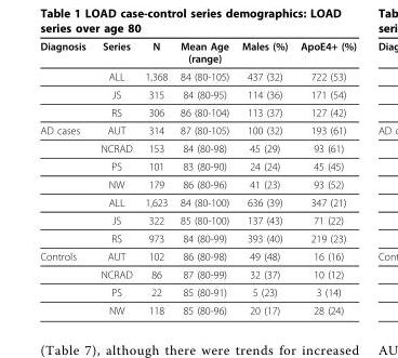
<table><thead><tr><td>Diagnosis</td><td>Series</td><td>N</td><td>Mean Age (range)</td><td>Males (%)</td><td>ApoE4+ (%)</td></tr></thead><tbody><tr><td></td><td>ALL</td><td>1,368</td><td>84 (80-105)</td><td>437 (32)</td><td>722 (53)</td></tr><tr><td></td><td>JS</td><td>315</td><td>84 (80-95)</td><td>114 (36)</td><td>171 (54)</td></tr><tr><td></td><td>RS</td><td>306</td><td>86 (80-104)</td><td>113 (37)</td><td>127 (42)</td></tr><tr><td rowspan="7">AD cases</td><td>AUT</td><td>314</td><td>87 (80-105)</td><td>100 (32)</td><td>193 (61)</td></tr><tr><td>NCRAD</td><td>153</td><td>84 (80-98)</td><td>45 (29)</td><td>93 (61)</td></tr><tr><td>PS</td><td>101</td><td>83 (80-90)</td><td>24 (24)</td><td>45 (45)</td></tr><tr><td>NW</td><td>179</td><td>86 (80-96)</td><td>41 (23)</td><td>93 (52)</td></tr><tr><td>ALL</td><td>1,623</td><td>84 (80-100)</td><td>636 (39)</td><td>347 (21)</td></tr><tr><td>JS</td><td>322</td><td>85 (80-100)</td><td>137 (43)</td><td>71 (22)</td></tr><tr><td>RS</td><td>973</td><td>84 (80-99)</td><td>393 (40)</td><td>219 (23)</td></tr><tr><td rowspan="4">Controls</td><td>AUT</td><td>102</td><td>86 (80-98)</td><td>49 (48)</td><td>16 (16)</td></tr><tr><td>NCRAD</td><td>86</td><td>87 (80-99)</td><td>32 (37)</td><td>10 (12)</td></tr><tr><td>PS</td><td>22</td><td>85 (80-91)</td><td>5 (23)</td><td>3 (14)</td></tr><tr><td>NW</td><td>118</td><td>85 (80-96)</td><td>20 (17)</td><td>28 (24)</td></tr></tbody></table>